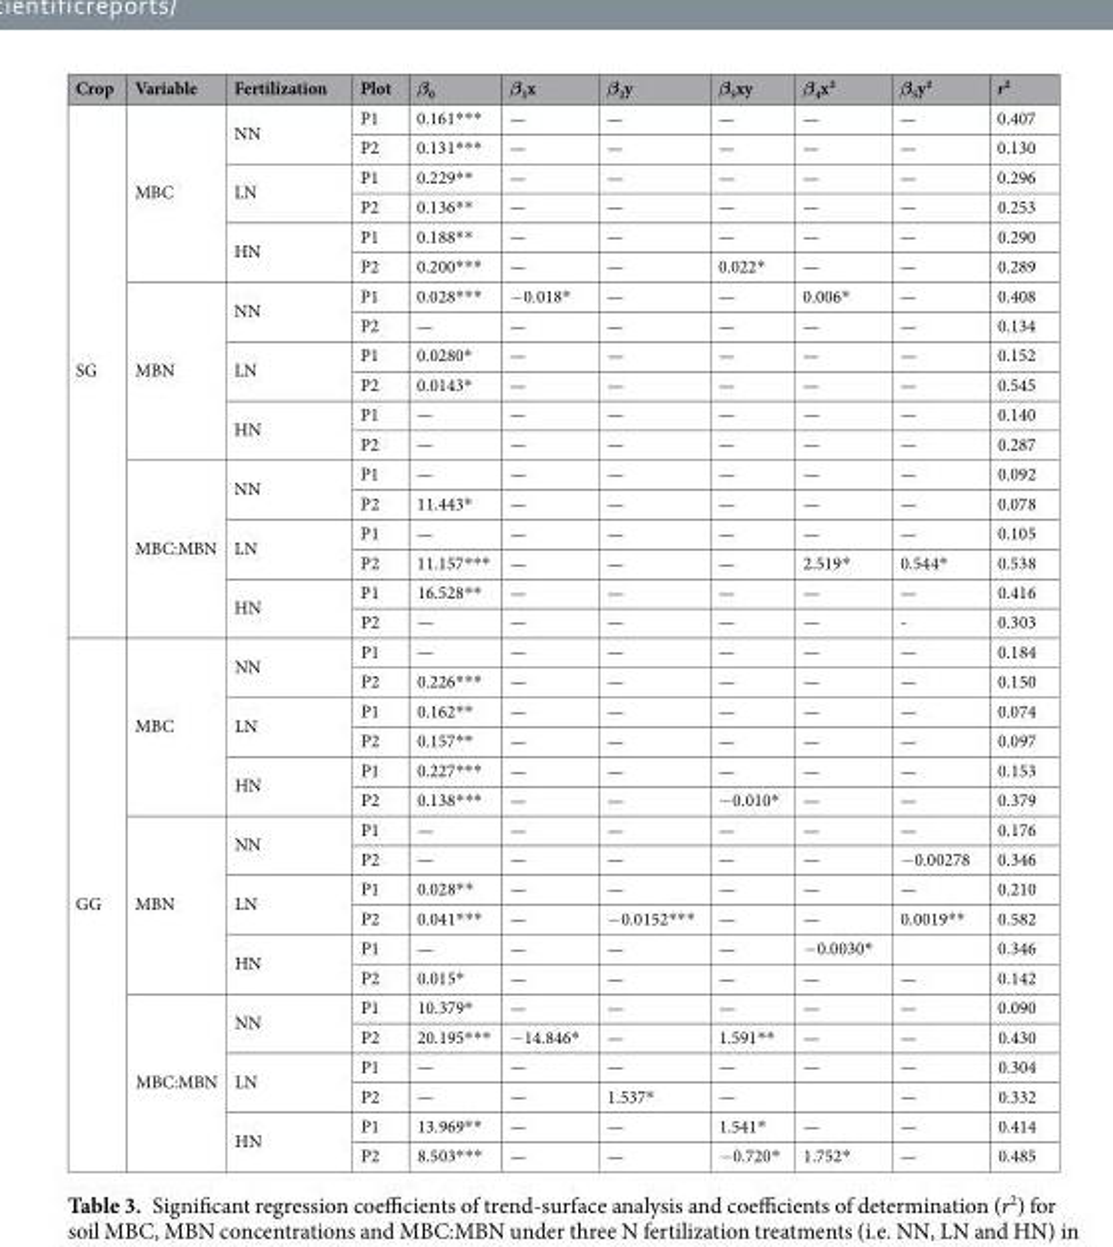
<table><thead><tr><td>Crop</td><td>Variable</td><td>Fertilization</td><td>Plot</td><td>β<sub>0</sub></td><td>β<sub>1</sub>x</td><td>β<sub>2</sub>y</td><td>β<sub>3</sub>xy</td><td>β<sub>4</sub>x²</td><td>β<sub>5</sub>y²</td><td>r²</td></tr></thead><tbody><tr><td rowspan="18">SG</td><td rowspan="6">MBC</td><td rowspan="2">NN</td><td>P1</td><td>0.161***</td><td>—</td><td>—</td><td>—</td><td>—</td><td>—</td><td>0.407</td></tr><tr><td>P2</td><td>0.131***</td><td>—</td><td>—</td><td>—</td><td>—</td><td>—</td><td>0.130</td></tr><tr><td rowspan="2">LN</td><td>P1</td><td>0.229**</td><td>—</td><td>—</td><td>—</td><td>—</td><td>—</td><td>0.296</td></tr><tr><td>P2</td><td>0.136**</td><td>—</td><td>—</td><td>—</td><td>—</td><td>—</td><td>0.253</td></tr><tr><td rowspan="2">HN</td><td>P1</td><td>0.188**</td><td>—</td><td>—</td><td>—</td><td>—</td><td>—</td><td>0.290</td></tr><tr><td>P2</td><td>0.200***</td><td>—</td><td>—</td><td>0.022*</td><td>—</td><td>—</td><td>0.289</td></tr><tr><td rowspan="6">MBN</td><td rowspan="2">NN</td><td>P1</td><td>0.028***</td><td>−0.018*</td><td>—</td><td>—</td><td>0.006*</td><td>—</td><td>0.408</td></tr><tr><td>P2</td><td>—</td><td>—</td><td>—</td><td>—</td><td>—</td><td>—</td><td>0.134</td></tr><tr><td rowspan="2">LN</td><td>P1</td><td>0.0280*</td><td>—</td><td>—</td><td>—</td><td>—</td><td>—</td><td>0.152</td></tr><tr><td>P2</td><td>0.0143*</td><td>—</td><td>—</td><td>—</td><td>—</td><td>—</td><td>0.545</td></tr><tr><td rowspan="2">HN</td><td>P1</td><td>—</td><td>—</td><td>—</td><td>—</td><td>—</td><td>—</td><td>0.140</td></tr><tr><td>P2</td><td>—</td><td>—</td><td>—</td><td>—</td><td>—</td><td>—</td><td>0.287</td></tr><tr><td rowspan="6">MBC:MBN</td><td rowspan="2">NN</td><td>P1</td><td>—</td><td>—</td><td>—</td><td>—</td><td>—</td><td>—</td><td>0.092</td></tr><tr><td>P2</td><td>11.443*</td><td>—</td><td>—</td><td>—</td><td>—</td><td>—</td><td>0.078</td></tr><tr><td rowspan="2">LN</td><td>P1</td><td>—</td><td>—</td><td>—</td><td>—</td><td>—</td><td>—</td><td>0.105</td></tr><tr><td>P2</td><td>11.157***</td><td>—</td><td>—</td><td>—</td><td>2.519*</td><td>0.544*</td><td>0.538</td></tr><tr><td rowspan="2">HN</td><td>P1</td><td>16.528**</td><td>—</td><td>—</td><td>—</td><td>—</td><td>—</td><td>0.416</td></tr><tr><td>P2</td><td>—</td><td>—</td><td>—</td><td>—</td><td>—</td><td>-</td><td>0.303</td></tr><tr><td rowspan="18">GG</td><td rowspan="6">MBC</td><td rowspan="2">NN</td><td>P1</td><td>—</td><td>—</td><td>—</td><td>—</td><td>—</td><td>—</td><td>0.184</td></tr><tr><td>P2</td><td>0.226***</td><td>—</td><td>—</td><td>—</td><td>—</td><td>—</td><td>0.150</td></tr><tr><td rowspan="2">LN</td><td>P1</td><td>0.162**</td><td>—</td><td>—</td><td>—</td><td>—</td><td>—</td><td>0.074</td></tr><tr><td>P2</td><td>0.157**</td><td>—</td><td>—</td><td>—</td><td>—</td><td>—</td><td>0.097</td></tr><tr><td rowspan="2">HN</td><td>P1</td><td>0.227***</td><td>—</td><td>—</td><td>—</td><td>—</td><td>—</td><td>0.153</td></tr><tr><td>P2</td><td>0.138***</td><td>—</td><td>—</td><td>−0.010*</td><td>—</td><td>—</td><td>0.379</td></tr><tr><td rowspan="6">MBN</td><td rowspan="2">NN</td><td>P1</td><td>—</td><td>—</td><td>—</td><td>—</td><td>—</td><td>—</td><td>0.176</td></tr><tr><td>P2</td><td>—</td><td>—</td><td>—</td><td>—</td><td>—</td><td>−0.00278</td><td>0.346</td></tr><tr><td rowspan="2">LN</td><td>P1</td><td>0.028**</td><td>—</td><td>—</td><td>—</td><td>—</td><td>—</td><td>0.210</td></tr><tr><td>P2</td><td>0.041***</td><td>—</td><td>−0.0152***</td><td>—</td><td>—</td><td>0.0019**</td><td>0.582</td></tr><tr><td rowspan="2">HN</td><td>P1</td><td>—</td><td>—</td><td>—</td><td>—</td><td>−0.0030*</td><td></td><td>0.346</td></tr><tr><td>P2</td><td>0.015*</td><td>—</td><td>—</td><td>—</td><td>—</td><td>—</td><td>0.142</td></tr><tr><td rowspan="6">MBC:MBN</td><td rowspan="2">NN</td><td>P1</td><td>10.379*</td><td>—</td><td>—</td><td>—</td><td>—</td><td>—</td><td>0.090</td></tr><tr><td>P2</td><td>20.195***</td><td>−14.846*</td><td>—</td><td>1.591**</td><td>—</td><td>—</td><td>0.430</td></tr><tr><td rowspan="2">LN</td><td>P1</td><td>—</td><td>—</td><td>—</td><td>—</td><td>—</td><td>—</td><td>0.304</td></tr><tr><td>P2</td><td>—</td><td>—</td><td>1.537*</td><td>—</td><td></td><td>—</td><td>0.332</td></tr><tr><td rowspan="2">HN</td><td>P1</td><td>13.969**</td><td>—</td><td>—</td><td>1.541*</td><td>—</td><td>—</td><td>0.414</td></tr><tr><td>P2</td><td>8.503***</td><td>—</td><td>—</td><td>−0.720*</td><td>1.752*</td><td>—</td><td>0.485</td></tr></tbody></table>